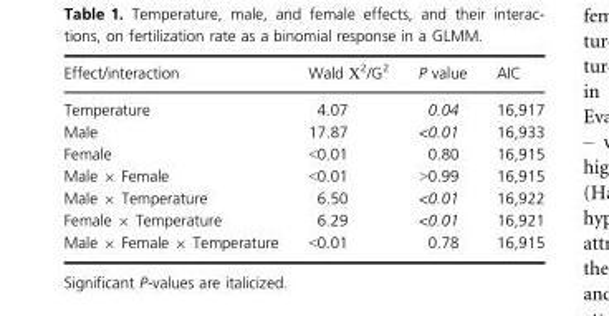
<table><thead><tr><td>Effect/interaction</td><td>Wald Χ<sup>2</sup>/G<sup>2</sup></td><td>P value</td><td>AIC</td></tr></thead><tbody><tr><td>Temperature</td><td>4.07</td><td>0.04</td><td>16,917</td></tr><tr><td>Male</td><td>17.87</td><td>&lt;0.01</td><td>16,933</td></tr><tr><td>Female</td><td>&lt;0.01</td><td>0.80</td><td>16,915</td></tr><tr><td>Male × Female</td><td>&lt;0.01</td><td>&gt;0.99</td><td>16,915</td></tr><tr><td>Male × Temperature</td><td>6.50</td><td>&lt;0.01</td><td>16,922</td></tr><tr><td>Female × Temperature</td><td>6.29</td><td>&lt;0.01</td><td>16,921</td></tr><tr><td>Male × Female × Temperature</td><td>&lt;0.01</td><td>0.78</td><td>16,915</td></tr></tbody></table>